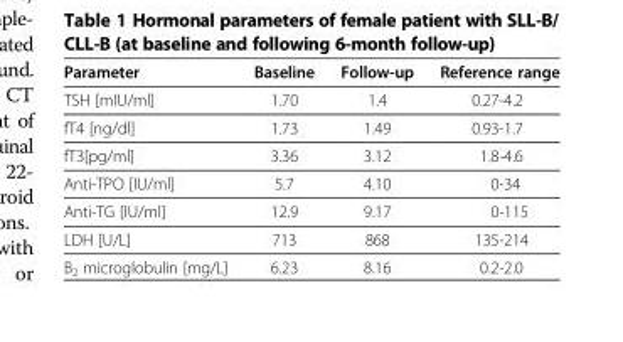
<table><thead><tr><td>Parameter</td><td>Baseline</td><td>Follow-up</td><td>Reference range</td></tr></thead><tbody><tr><td>TSH [mIU/ml]</td><td>1.70</td><td>1.4</td><td>0.27-4.2</td></tr><tr><td>fT4 [ng/dl]</td><td>1.73</td><td>1.49</td><td>0.93-1.7</td></tr><tr><td>fT3[pg/ml]</td><td>3.36</td><td>3.12</td><td>1.8-4.6</td></tr><tr><td>Anti-TPO [IU/ml]</td><td>5.7</td><td>4.10</td><td>0-34</td></tr><tr><td>Anti-TG [IU/ml]</td><td>12.9</td><td>9.17</td><td>0-115</td></tr><tr><td>LDH [U/L]</td><td>713</td><td>868</td><td>135-214</td></tr><tr><td>B<sub>2</sub> microglobulin [mg/L]</td><td>6.23</td><td>8.16</td><td>0.2-2.0</td></tr></tbody></table>